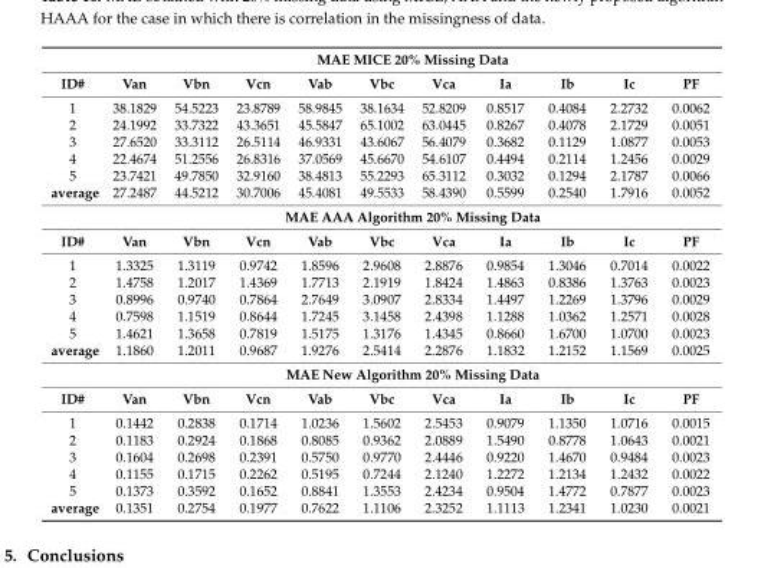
<table><thead><tr><td rowspan="2">ID#</td><td colspan="10">MAE MICE 20% Missing Data</td></tr><tr><td>Van</td><td>Vbn</td><td>Vcn</td><td>Vab</td><td>Vbc</td><td>Vca</td><td>Ia</td><td>Ib</td><td>Ic</td><td>PF</td></tr></thead><tbody><tr><td>1</td><td>38.1829</td><td>54.5223</td><td>23.8789</td><td>58.9845</td><td>38.1634</td><td>52.8209</td><td>0.8517</td><td>0.4084</td><td>2.2732</td><td>0.0062</td></tr><tr><td>2</td><td>24.1992</td><td>33.7322</td><td>43.3651</td><td>45.5847</td><td>65.1002</td><td>63.0445</td><td>0.8267</td><td>0.4078</td><td>2.1729</td><td>0.0051</td></tr><tr><td>3</td><td>27.6520</td><td>33.3112</td><td>26.5114</td><td>46.9331</td><td>43.6067</td><td>56.4079</td><td>0.3682</td><td>0.1129</td><td>1.0877</td><td>0.0053</td></tr><tr><td>4</td><td>22.4674</td><td>51.2556</td><td>26.8316</td><td>37.0569</td><td>45.6670</td><td>54.6107</td><td>0.4494</td><td>0.2114</td><td>1.2456</td><td>0.0029</td></tr><tr><td>5</td><td>23.7421</td><td>49.7850</td><td>32.9160</td><td>38.4813</td><td>55.2293</td><td>65.3112</td><td>0.3032</td><td>0.1294</td><td>2.1787</td><td>0.0066</td></tr><tr><td rowspan="2">average</td><td>27.2487</td><td>44.5212</td><td>30.7006</td><td>45.4081</td><td>49.5533</td><td>58.4390</td><td>0.5599</td><td>0.2540</td><td>1.7916</td><td>0.0052</td></tr><tr><td colspan="10">MAE AAA Algorithm 20% Missing Data</td></tr><tr><td>ID#</td><td>Van</td><td>Vbn</td><td>Vcn</td><td>Vab</td><td>Vbc</td><td>Vca</td><td>Ia</td><td>Ib</td><td>Ic</td><td>PF</td></tr><tr><td>1</td><td>1.3325</td><td>1.3119</td><td>0.9742</td><td>1.8596</td><td>2.9608</td><td>2.8876</td><td>0.9854</td><td>1.3046</td><td>0.7014</td><td>0.0022</td></tr><tr><td>2</td><td>1.4758</td><td>1.2017</td><td>1.4369</td><td>1.7713</td><td>2.1919</td><td>1.8424</td><td>1.4863</td><td>0.8386</td><td>1.3763</td><td>0.0023</td></tr><tr><td>3</td><td>0.8996</td><td>0.9740</td><td>0.7864</td><td>2.7649</td><td>3.0907</td><td>2.8334</td><td>1.4497</td><td>1.2269</td><td>1.3796</td><td>0.0029</td></tr><tr><td>4</td><td>0.7598</td><td>1.1519</td><td>0.8644</td><td>1.7245</td><td>3.1458</td><td>2.4398</td><td>1.1288</td><td>1.0362</td><td>1.2571</td><td>0.0028</td></tr><tr><td>5</td><td>1.4621</td><td>1.3658</td><td>0.7819</td><td>1.5175</td><td>1.3176</td><td>1.4345</td><td>0.8660</td><td>1.6700</td><td>1.0700</td><td>0.0023</td></tr><tr><td rowspan="2">average</td><td>1.1860</td><td>1.2011</td><td>0.9687</td><td>1.9276</td><td>2.5414</td><td>2.2876</td><td>1.1832</td><td>1.2152</td><td>1.1569</td><td>0.0025</td></tr><tr><td colspan="10">MAE New Algorithm 20% Missing Data</td></tr><tr><td>ID#</td><td>Van</td><td>Vbn</td><td>Vcn</td><td>Vab</td><td>Vbc</td><td>Vca</td><td>Ia</td><td>Ib</td><td>Ic</td><td>PF</td></tr><tr><td>1</td><td>0.1442</td><td>0.2838</td><td>0.1714</td><td>1.0236</td><td>1.5602</td><td>2.5453</td><td>0.9079</td><td>1.1350</td><td>1.0716</td><td>0.0015</td></tr><tr><td>2</td><td>0.1183</td><td>0.2924</td><td>0.1868</td><td>0.8085</td><td>0.9362</td><td>2.0889</td><td>1.5490</td><td>0.8778</td><td>1.0643</td><td>0.0021</td></tr><tr><td>3</td><td>0.1604</td><td>0.2698</td><td>0.2391</td><td>0.5750</td><td>0.9770</td><td>2.4446</td><td>0.9220</td><td>1.4670</td><td>0.9484</td><td>0.0023</td></tr><tr><td>4</td><td>0.1155</td><td>0.1715</td><td>0.2262</td><td>0.5195</td><td>0.7244</td><td>2.1240</td><td>1.2272</td><td>1.2134</td><td>1.2432</td><td>0.0022</td></tr><tr><td>5</td><td>0.1373</td><td>0.3592</td><td>0.1652</td><td>0.8841</td><td>1.3553</td><td>2.4234</td><td>0.9504</td><td>1.4772</td><td>0.7877</td><td>0.0023</td></tr><tr><td>average</td><td>0.1351</td><td>0.2754</td><td>0.1977</td><td>0.7622</td><td>1.1106</td><td>2.3252</td><td>1.1113</td><td>1.2341</td><td>1.0230</td><td>0.0021</td></tr></tbody></table>